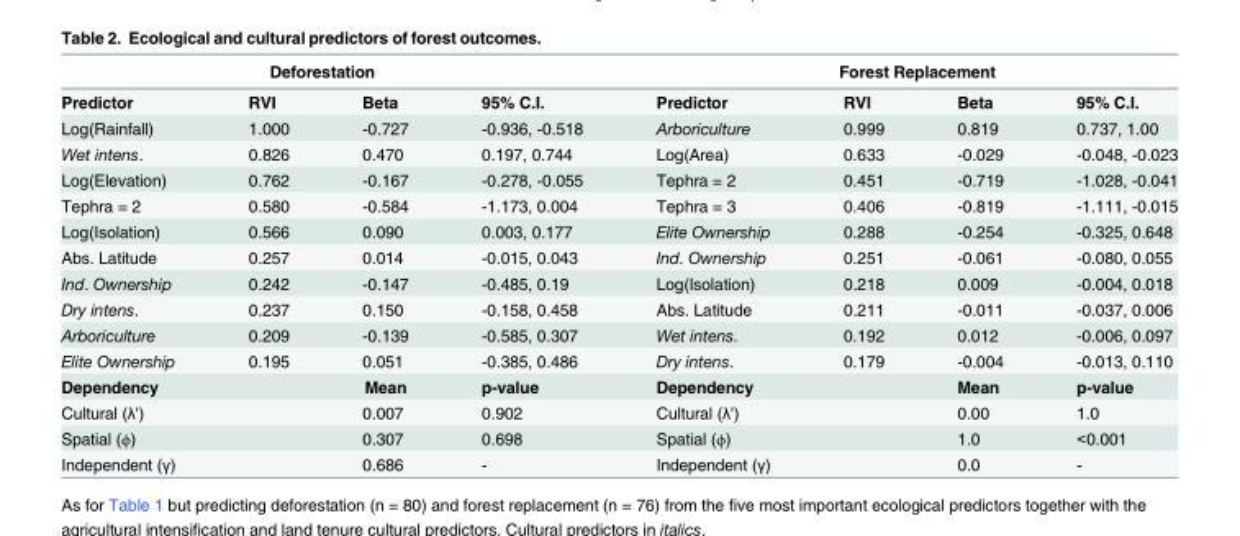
<table><thead><tr><td colspan="4">Deforestation</td><td colspan="4">Forest Replacement</td></tr><tr><td>Predictor</td><td>RVI</td><td>Beta</td><td>95% C.I.</td><td>Predictor</td><td>RVI</td><td>Beta</td><td>95% C.I.</td></tr></thead><tbody><tr><td>Log(Rainfall)</td><td>1.000</td><td>-0.727</td><td>-0.936, -0.518</td><td>Arboriculture</td><td>0.999</td><td>0.819</td><td>0.737, 1.00</td></tr><tr><td>Wet intens.</td><td>0.826</td><td>0.470</td><td>0.197, 0.744</td><td>Log(Area)</td><td>0.633</td><td>-0.029</td><td>-0.048, -0.023</td></tr><tr><td>Log(Elevation)</td><td>0.762</td><td>-0.167</td><td>-0.278, -0.055</td><td>Tephra = 2</td><td>0.451</td><td>-0.719</td><td>-1.028, -0.041</td></tr><tr><td>Tephra = 2</td><td>0.580</td><td>-0.584</td><td>-1.173, 0.004</td><td>Tephra = 3</td><td>0.406</td><td>-0.819</td><td>-1.111, -0.015</td></tr><tr><td>Log(Isolation)</td><td>0.566</td><td>0.090</td><td>0.003, 0.177</td><td>Elite Ownership</td><td>0.288</td><td>-0.254</td><td>-0.325, 0.648</td></tr><tr><td>Abs. Latitude</td><td>0.257</td><td>0.014</td><td>-0.015, 0.043</td><td>Ind. Ownership</td><td>0.251</td><td>-0.061</td><td>-0.080, 0.055</td></tr><tr><td>Ind. Ownership</td><td>0.242</td><td>-0.147</td><td>-0.485, 0.19</td><td>Log(Isolation)</td><td>0.218</td><td>0.009</td><td>-0.004, 0.018</td></tr><tr><td>Dry intens.</td><td>0.237</td><td>0.150</td><td>-0.158, 0.458</td><td>Abs. Latitude</td><td>0.211</td><td>-0.011</td><td>-0.037, 0.006</td></tr><tr><td>Arboriculture</td><td>0.209</td><td>-0.139</td><td>-0.585, 0.307</td><td>Wet intens.</td><td>0.192</td><td>0.012</td><td>-0.006, 0.097</td></tr><tr><td>Elite Ownership</td><td>0.195</td><td>0.051</td><td>-0.385, 0.486</td><td>Dry intens.</td><td>0.179</td><td>-0.004</td><td>-0.013, 0.110</td></tr><tr><td>Dependency</td><td></td><td>Mean</td><td>p-value</td><td>Dependency</td><td></td><td>Mean</td><td>p-value</td></tr><tr><td>Cultural (λ&#x27;)</td><td></td><td>0.007</td><td>0.902</td><td>Cultural (λ&#x27;)</td><td></td><td>0.00</td><td>1.0</td></tr><tr><td>Spatial (ϕ)</td><td></td><td>0.307</td><td>0.698</td><td>Spatial (ϕ)</td><td></td><td>1.0</td><td>&lt;0.001</td></tr><tr><td>Independent (γ)</td><td></td><td>0.686</td><td>-</td><td>Independent (γ)</td><td></td><td>0.0</td><td>-</td></tr></tbody></table>